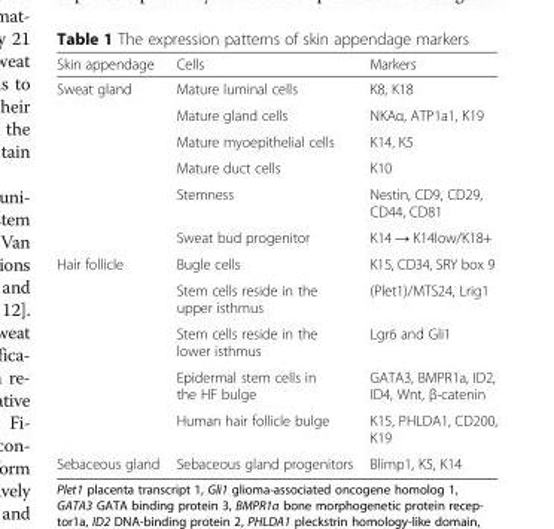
<table><thead><tr><td>Skin appendage</td><td>Cells</td><td>Markers</td></tr></thead><tbody><tr><td rowspan="6">Sweat gland</td><td>Mature luminal cells</td><td>K8, K18</td></tr><tr><td>Mature gland cells</td><td>NKAα, ATP1a1, K19</td></tr><tr><td>Mature myoepithelial cells</td><td>K14, K5</td></tr><tr><td>Mature duct cells</td><td>K10</td></tr><tr><td>Stemness</td><td>Nestin, CD9, CD29, CD44, CD81</td></tr><tr><td>Sweat bud progenitor</td><td>K14 → K14low/K18+</td></tr><tr><td rowspan="5">Hair follicle</td><td>Bugle cells</td><td>K15, CD34, SRY box 9</td></tr><tr><td>Stem cells reside in the upper isthmus</td><td>(Plet1)/MTS24, Lrig1</td></tr><tr><td>Stem cells reside in the lower isthmus</td><td>Lgr6 and Gli1</td></tr><tr><td>Epidermal stem cells in the HF bulge</td><td>GATA3, BMPR1a, ID2, ID4, Wnt, β-catenin</td></tr><tr><td>Human hair follicle bulge</td><td>K15, PHLDA1, CD200, K19</td></tr><tr><td>Sebaceous gland</td><td>Sebaceous gland progenitors</td><td>Blimp1, K5, K14</td></tr></tbody></table>